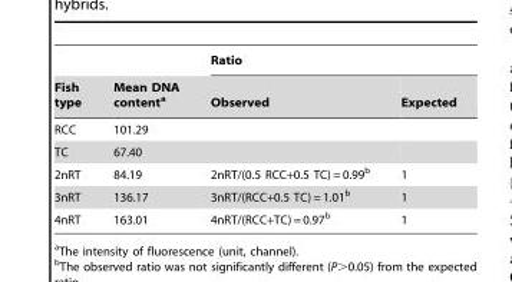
<table><thead><tr><td rowspan="2">Fish type</td><td rowspan="2">Mean DNA content<sup>a</sup></td><td colspan="2">Ratio</td></tr><tr><td>Observed</td><td>Expected</td></tr></thead><tbody><tr><td>RCC</td><td>101.29</td><td></td><td></td></tr><tr><td>TC</td><td>67.40</td><td></td><td></td></tr><tr><td>2nRT</td><td>84.19</td><td>2nRT/(0.5 RCC+0.5 TC) = 0.99<sup>b</sup></td><td>1</td></tr><tr><td>3nRT</td><td>136.17</td><td>3nRT/(RCC+0.5 TC) = 1.01<sup>b</sup></td><td>1</td></tr><tr><td>4nRT</td><td>163.01</td><td>4nRT/(RCC+TC) = 0.97<sup>b</sup></td><td>1</td></tr></tbody></table>